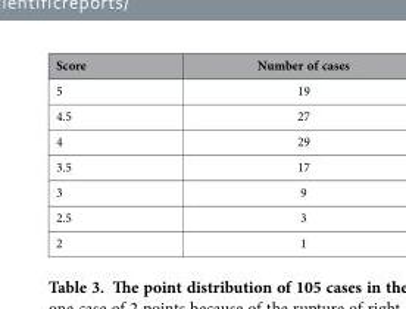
<table><thead><tr><td>Score</td><td>Number of cases</td></tr></thead><tbody><tr><td>5</td><td>19</td></tr><tr><td>4.5</td><td>27</td></tr><tr><td>4</td><td>29</td></tr><tr><td>3.5</td><td>17</td></tr><tr><td>3</td><td>9</td></tr><tr><td>2.5</td><td>3</td></tr><tr><td>2</td><td>1</td></tr></tbody></table>